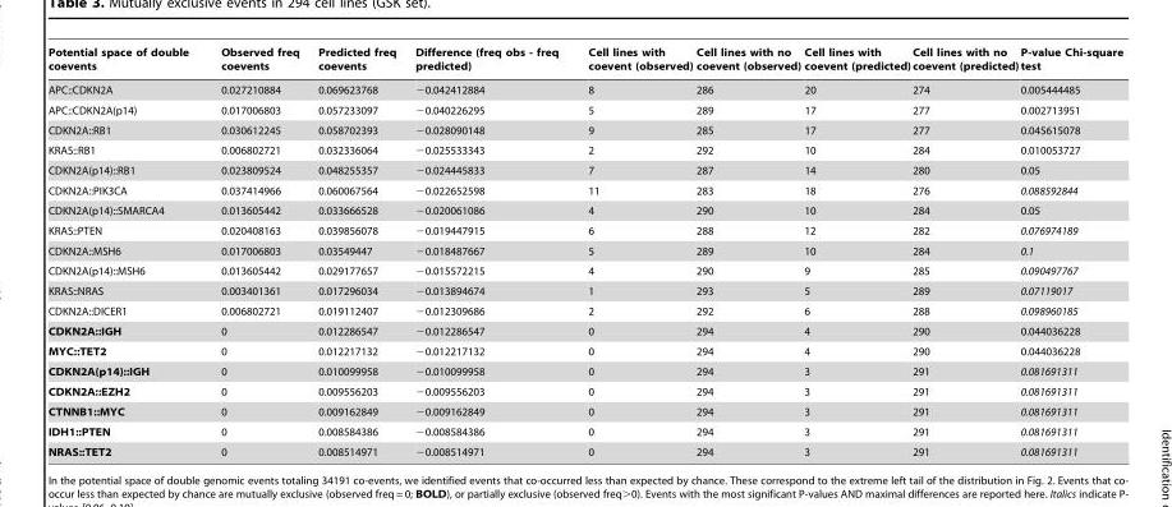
<table><thead><tr><td>Potential space of double coevents</td><td>Observed freq coevents</td><td>Predicted freq coevents</td><td>Difference (freq obs - freq predicted)</td><td>Cell lines with coevent (observed)</td><td>Cell lines with no coevent (observed)</td><td>Cell lines with coevent (predicted)</td><td>Cell lines with no coevent (predicted)</td><td>P-value Chi-square test</td></tr></thead><tbody><tr><td>APC::CDKN2A</td><td>0.027210884</td><td>0.069623768</td><td>−0.042412884</td><td>8</td><td>286</td><td>20</td><td>274</td><td>0.005444485</td></tr><tr><td>APC::CDKN2A(p14)</td><td>0.017006803</td><td>0.057233097</td><td>−0.040226295</td><td>5</td><td>289</td><td>17</td><td>277</td><td>0.002713951</td></tr><tr><td>CDKN2A::RB1</td><td>0.030612245</td><td>0.058702393</td><td>−0.028090148</td><td>9</td><td>285</td><td>17</td><td>277</td><td>0.045615078</td></tr><tr><td>KRAS::RB1</td><td>0.006802721</td><td>0.032336064</td><td>−0.025533343</td><td>2</td><td>292</td><td>10</td><td>284</td><td>0.010053727</td></tr><tr><td>CDKN2A(p14)::RB1</td><td>0.023809524</td><td>0.048255357</td><td>−0.024445833</td><td>7</td><td>287</td><td>14</td><td>280</td><td>0.05</td></tr><tr><td>CDKN2A::PIK3CA</td><td>0.037414966</td><td>0.060067564</td><td>−0.022652598</td><td>11</td><td>283</td><td>18</td><td>276</td><td>0.088592844</td></tr><tr><td>CDKN2A(p14)::SMARCA4</td><td>0.013605442</td><td>0.033666528</td><td>−0.020061086</td><td>4</td><td>290</td><td>10</td><td>284</td><td>0.05</td></tr><tr><td>KRAS::PTEN</td><td>0.020408163</td><td>0.039856078</td><td>−0.019447915</td><td>6</td><td>288</td><td>12</td><td>282</td><td>0.076974189</td></tr><tr><td>CDKN2A::MSH6</td><td>0.017006803</td><td>0.03549447</td><td>−0.018487667</td><td>5</td><td>289</td><td>10</td><td>284</td><td>0.1</td></tr><tr><td>CDKN2A(p14)::MSH6</td><td>0.013605442</td><td>0.029177657</td><td>−0.015572215</td><td>4</td><td>290</td><td>9</td><td>285</td><td>0.090497767</td></tr><tr><td>KRAS::NRAS</td><td>0.003401361</td><td>0.017296034</td><td>−0.013894674</td><td>1</td><td>293</td><td>5</td><td>289</td><td>0.07119017</td></tr><tr><td>CDKN2A::DICER1</td><td>0.006802721</td><td>0.019112407</td><td>−0.012309686</td><td>2</td><td>292</td><td>6</td><td>288</td><td>0.098960185</td></tr><tr><td>CDKN2A::IGH</td><td>0</td><td>0.012286547</td><td>−0.012286547</td><td>0</td><td>294</td><td>4</td><td>290</td><td>0.044036228</td></tr><tr><td>MYC::TET2</td><td>0</td><td>0.012217132</td><td>−0.012217132</td><td>0</td><td>294</td><td>4</td><td>290</td><td>0.044036228</td></tr><tr><td>CDKN2A(p14)::IGH</td><td>0</td><td>0.010099958</td><td>−0.010099958</td><td>0</td><td>294</td><td>3</td><td>291</td><td>0.081691311</td></tr><tr><td>CDKN2A::EZH2</td><td>0</td><td>0.009556203</td><td>−0.009556203</td><td>0</td><td>294</td><td>3</td><td>291</td><td>0.081691311</td></tr><tr><td>CTNNB1::MYC</td><td>0</td><td>0.009162849</td><td>−0.009162849</td><td>0</td><td>294</td><td>3</td><td>291</td><td>0.081691311</td></tr><tr><td>IDH1::PTEN</td><td>0</td><td>0.008584386</td><td>−0.008584386</td><td>0</td><td>294</td><td>3</td><td>291</td><td>0.081691311</td></tr><tr><td>NRAS::TET2</td><td>0</td><td>0.008514971</td><td>−0.008514971</td><td>0</td><td>294</td><td>3</td><td>291</td><td>0.081691311</td></tr></tbody></table>